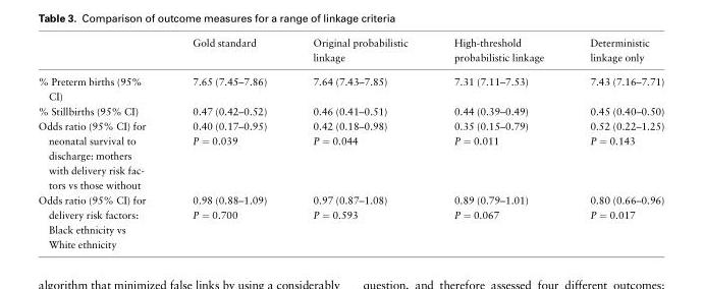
<table><thead><tr><td></td><td>Gold standard</td><td>Original probabilistic linkage</td><td>High-threshold probabilistic linkage</td><td>Deterministic linkage only</td></tr></thead><tbody><tr><td>% Preterm births (95% CI)</td><td>7.65 (7.45–7.86)</td><td>7.64 (7.43–7.85)</td><td>7.31 (7.11–7.53)</td><td>7.43 (7.16–7.71)</td></tr><tr><td>% Stillbirths (95% CI)</td><td>0.47 (0.42–0.52)</td><td>0.46 (0.41–0.51)</td><td>0.44 (0.39–0.49)</td><td>0.45 (0.40–0.50)</td></tr><tr><td rowspan="2">Odds ratio (95% CI) for neonatal survival to discharge: mothers with delivery risk fac- tors vs those without</td><td>0.40 (0.17–0.95)</td><td>0.42 (0.18–0.98)</td><td>0.35 (0.15–0.79)</td><td>0.52 (0.22–1.25)</td></tr><tr><td>P = 0.039</td><td>P = 0.044</td><td>P = 0.011</td><td>P = 0.143</td></tr><tr><td rowspan="2">Odds ratio (95% CI) for delivery risk factors: Black ethnicity vs White ethnicity</td><td>0.98 (0.88–1.09)</td><td>0.97 (0.87–1.08)</td><td>0.89 (0.79–1.01)</td><td>0.80 (0.66–0.96)</td></tr><tr><td>P = 0.700</td><td>P = 0.593</td><td>P = 0.067</td><td>P = 0.017</td></tr></tbody></table>